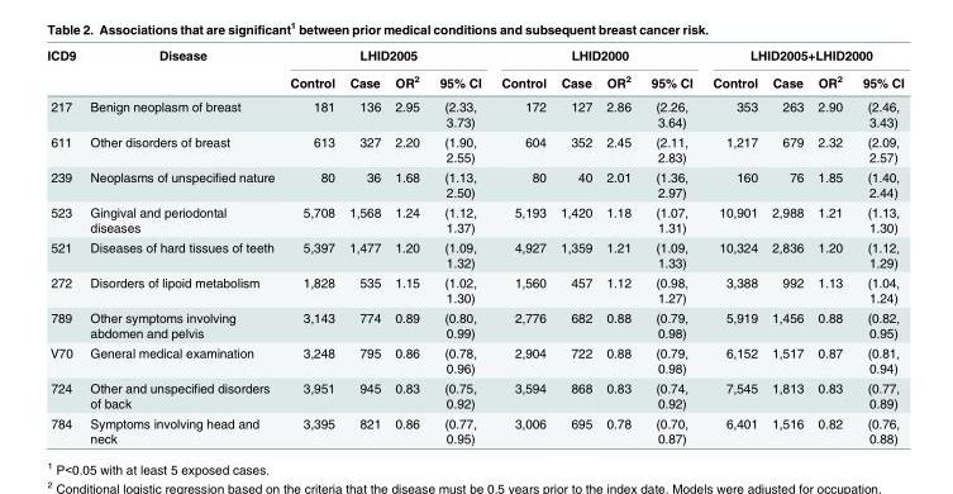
<table><thead><tr><td rowspan="2">ICD9</td><td rowspan="2">Disease</td><td colspan="4">LHID2005</td><td colspan="4">LHID2000</td><td colspan="4">LHID2005+LHID2000</td></tr><tr><td>Control</td><td>Case</td><td>OR<sup>2</sup></td><td>95% CI</td><td>Control</td><td>Case</td><td>OR<sup>2</sup></td><td>95% CI</td><td>Control</td><td>Case</td><td>OR<sup>2</sup></td><td>95% CI</td></tr></thead><tbody><tr><td>217</td><td>Benign neoplasm of breast</td><td>181</td><td>136</td><td>2.95</td><td>(2.33, 3.73)</td><td>172</td><td>127</td><td>2.86</td><td>(2.26, 3.64)</td><td>353</td><td>263</td><td>2.90</td><td>(2.46, 3.43)</td></tr><tr><td>611</td><td>Other disorders of breast</td><td>613</td><td>327</td><td>2.20</td><td>(1.90, 2.55)</td><td>604</td><td>352</td><td>2.45</td><td>(2.11, 2.83)</td><td>1,217</td><td>679</td><td>2.32</td><td>(2.09, 2.57)</td></tr><tr><td>239</td><td>Neoplasms of unspecified nature</td><td>80</td><td>36</td><td>1.68</td><td>(1.13, 2.50)</td><td>80</td><td>40</td><td>2.01</td><td>(1.36, 2.97)</td><td>160</td><td>76</td><td>1.85</td><td>(1.40, 2.44)</td></tr><tr><td>523</td><td>Gingival and periodontal diseases</td><td>5,708</td><td>1,568</td><td>1.24</td><td>(1.12, 1.37)</td><td>5,193</td><td>1,420</td><td>1.18</td><td>(1.07, 1.31)</td><td>10,901</td><td>2,988</td><td>1.21</td><td>(1.13, 1.30)</td></tr><tr><td>521</td><td>Diseases of hard tissues of teeth</td><td>5,397</td><td>1,477</td><td>1.20</td><td>(1.09, 1.32)</td><td>4,927</td><td>1,359</td><td>1.21</td><td>(1.09, 1.33)</td><td>10,324</td><td>2,836</td><td>1.20</td><td>(1.12, 1.29)</td></tr><tr><td>272</td><td>Disorders of lipoid metabolism</td><td>1,828</td><td>535</td><td>1.15</td><td>(1.02, 1.30)</td><td>1,560</td><td>457</td><td>1.12</td><td>(0.98, 1.27)</td><td>3,388</td><td>992</td><td>1.13</td><td>(1.04, 1.24)</td></tr><tr><td>789</td><td>Other symptoms involving abdomen and pelvis</td><td>3,143</td><td>774</td><td>0.89</td><td>(0.80, 0.99)</td><td>2,776</td><td>682</td><td>0.88</td><td>(0.79, 0.98)</td><td>5,919</td><td>1,456</td><td>0.88</td><td>(0.82, 0.95)</td></tr><tr><td>V70</td><td>General medical examination</td><td>3,248</td><td>795</td><td>0.86</td><td>(0.78, 0.96)</td><td>2,904</td><td>722</td><td>0.88</td><td>(0.79, 0.98)</td><td>6,152</td><td>1,517</td><td>0.87</td><td>(0.81, 0.94)</td></tr><tr><td>724</td><td>Other and unspecified disorders of back</td><td>3,951</td><td>945</td><td>0.83</td><td>(0.75, 0.92)</td><td>3,594</td><td>868</td><td>0.83</td><td>(0.74, 0.92)</td><td>7,545</td><td>1,813</td><td>0.83</td><td>(0.77, 0.89)</td></tr><tr><td>784</td><td>Symptoms involving head and neck</td><td>3,395</td><td>821</td><td>0.86</td><td>(0.77, 0.95)</td><td>3,006</td><td>695</td><td>0.78</td><td>(0.70, 0.87)</td><td>6,401</td><td>1,516</td><td>0.82</td><td>(0.76, 0.88)</td></tr></tbody></table>